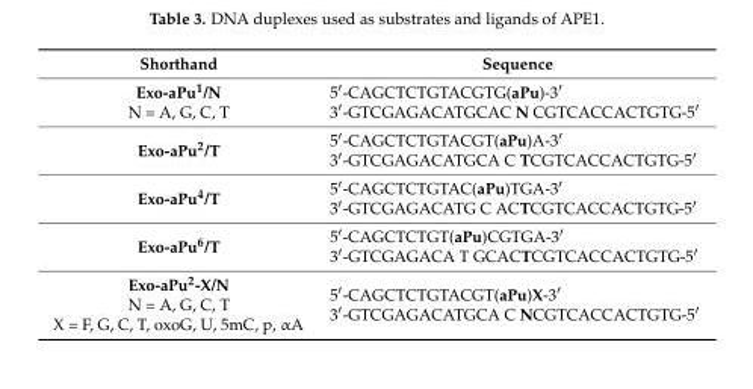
<table><thead><tr><td>Shorthand</td><td>Sequence</td></tr></thead><tbody><tr><td>Exo-aPu1/N N = A, G, C, T</td><td>5′-CAGCTCTGTACGTG(aPu)-3′ 3′-GTCGAGACATGCAC N CGTCACCACTGTG-5′</td></tr><tr><td>Exo-aPu2/T</td><td>5′-CAGCTCTGTACGT(aPu)A-3′ 3′-GTCGAGACATGCA C TCGTCACCACTGTG-5′</td></tr><tr><td>Exo-aPu4/T</td><td>5′-CAGCTCTGTAC(aPu)TGA-3′ 3′-GTCGAGACATG C ACTCGTCACCACTGTG-5′</td></tr><tr><td>Exo-aPu6/T</td><td>5′-CAGCTCTGT(aPu)CGTGA-3′ 3′-GTCGAGACA T GCACTCGTCACCACTGTG-5′</td></tr><tr><td>Exo-aPu2-X/N N = A, G, C, T X = F, G, C, T, oxoG, U, 5mC, p, αA</td><td>5′-CAGCTCTGTACGT(aPu)X-3′ 3′-GTCGAGACATGCA C NCGTCACCACTGTG-5′</td></tr></tbody></table>